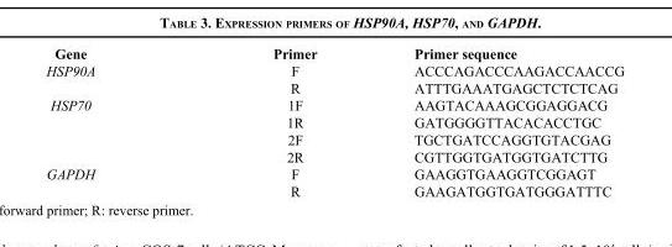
<table><thead><tr><td>Gene</td><td>Primer</td><td>Primer sequence</td></tr></thead><tbody><tr><td rowspan="2">HSP90A</td><td>F</td><td>ACCCAGACCCAAGACCAACCG</td></tr><tr><td>R</td><td>ATTTGAAATGAGCTCTCTCAG</td></tr><tr><td rowspan="4">HSP70</td><td>1F</td><td>AAGTACAAAGCGGAGGACG</td></tr><tr><td>1R</td><td>GATGGGGTTACACACCTGC</td></tr><tr><td>2F</td><td>TGCTGATCCAGGTGTACGAG</td></tr><tr><td>2R</td><td>CGTTGGTGATGGTGATCTTG</td></tr><tr><td rowspan="2">GAPDH</td><td>F</td><td>GAAGGTGAAGGTCGGAGT</td></tr><tr><td>R</td><td>GAAGATGGTGATGGGATTTC</td></tr></tbody></table>